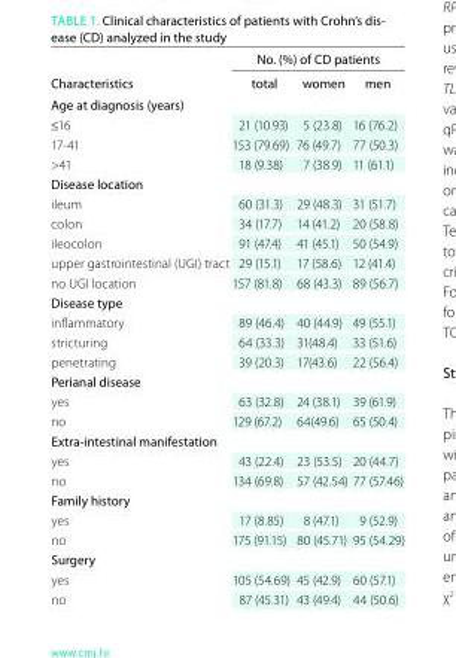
<table><thead><tr><td rowspan="2">Characteristics</td><td colspan="3">No. (%) of CD patients</td></tr><tr><td>total</td><td>women</td><td>men</td></tr></thead><tbody><tr><td colspan="4">Age at diagnosis (years)</td></tr><tr><td>≤16</td><td>21 (10.93)</td><td>5 (23.8)</td><td>16 (76.2)</td></tr><tr><td>17-41</td><td>153 (79.69)</td><td>76 (49.7)</td><td>77 (50.3)</td></tr><tr><td>&gt;41</td><td>18 (9.38)</td><td>7 (38.9)</td><td>11 (61.1)</td></tr><tr><td colspan="4">Disease location</td></tr><tr><td>ileum</td><td>60 (31.3)</td><td>29 (48.3)</td><td>31 (51.7)</td></tr><tr><td>colon</td><td>34 (17.7)</td><td>14 (41.2)</td><td>20 (58.8)</td></tr><tr><td>ileocolon</td><td>91 (47.4)</td><td>41 (45.1)</td><td>50 (54.9)</td></tr><tr><td>upper gastrointestinal (UGI) tract</td><td>29 (15.1)</td><td>17 (58.6)</td><td>12 (41.4)</td></tr><tr><td>no UGI location</td><td>157 (81.8)</td><td>68 (43.3)</td><td>89 (56.7)</td></tr><tr><td colspan="4">Disease type</td></tr><tr><td>inflammatory</td><td>89 (46.4)</td><td>40 (44.9)</td><td>49 (55.1)</td></tr><tr><td>stricturing</td><td>64 (33.3)</td><td>31(48.4)</td><td>33 (51.6)</td></tr><tr><td>penetrating</td><td>39 (20.3)</td><td>17(43.6)</td><td>22 (56.4)</td></tr><tr><td colspan="4">Perianal disease</td></tr><tr><td>yes</td><td>63 (32.8)</td><td>24 (38.1)</td><td>39 (61.9)</td></tr><tr><td>no</td><td>129 (67.2)</td><td>64(49.6)</td><td>65 (50.4)</td></tr><tr><td colspan="4">extra-intestinal manifestation</td></tr><tr><td>yes</td><td>43 (22.4)</td><td>23 (53.5)</td><td>20 (44.7)</td></tr><tr><td>no</td><td>134 (69.8)</td><td>57 (42.54)</td><td>77 (57.46)</td></tr><tr><td colspan="4">Family history</td></tr><tr><td>yes</td><td>17 (8.85)</td><td>8 (47.1)</td><td>9 (52.9)</td></tr><tr><td>no</td><td>175 (91.15)</td><td>80 (45.71)</td><td>95 (54.29)</td></tr><tr><td colspan="4">Surgery</td></tr><tr><td>yes</td><td>105 (54.69)</td><td>45 (42.9)</td><td>60 (57.1)</td></tr><tr><td>no</td><td>87 (45.31)</td><td>43 (49.4)</td><td>44 (50.6)</td></tr></tbody></table>